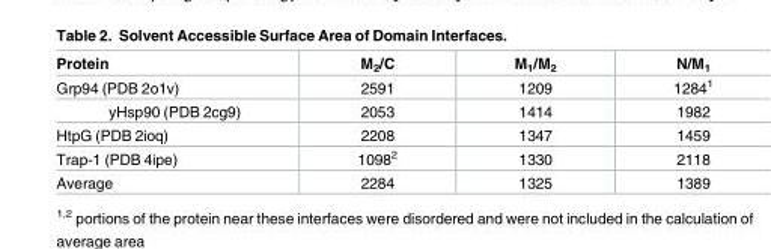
<table><thead><tr><td>Protein</td><td>M<sub>2</sub>/C</td><td>M<sub>1</sub>/M<sub>2</sub></td><td>N/M<sub>1</sub></td></tr></thead><tbody><tr><td>Grp94 (PDB 2o1v)</td><td>2591</td><td>1209</td><td>1284<sup>1</sup></td></tr><tr><td>yHsp90 (PDB 2cg9)</td><td>2053</td><td>1414</td><td>1982</td></tr><tr><td>HtpG (PDB 2ioq)</td><td>2208</td><td>1347</td><td>1459</td></tr><tr><td>Trap-1 (PDB 4ipe)</td><td>1098<sup>2</sup></td><td>1330</td><td>2118</td></tr><tr><td>Average</td><td>2284</td><td>1325</td><td>1389</td></tr></tbody></table>